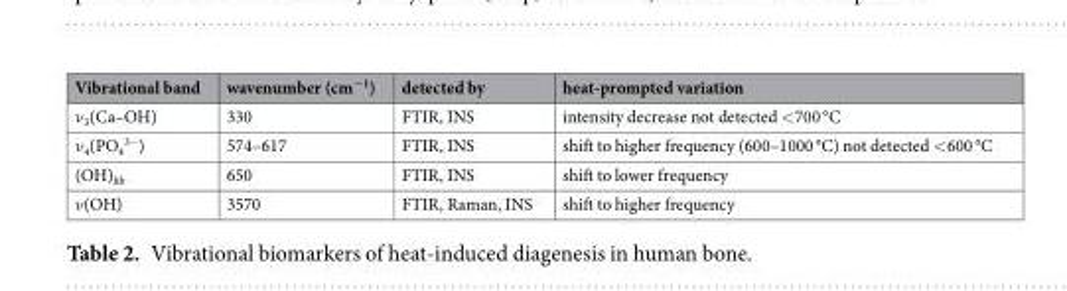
<table><thead><tr><td>Vibrational band</td><td>wavenumber (cm<sup>−1</sup>)</td><td>detected by</td><td>heat-prompted variation</td></tr></thead><tbody><tr><td>ν<sub>3</sub>(Ca–OH)</td><td>330</td><td>FTIR, INS</td><td>intensity decrease not detected &lt;700 °C</td></tr><tr><td>ν<sub>4</sub>(PO<sub>4</sub> <sup>3−</sup>)</td><td>574–617</td><td>FTIR, INS</td><td>shift to higher frequency (600–1000 °C) not detected &lt;600 °C</td></tr><tr><td>(OH)<sub>lib</sub></td><td>650</td><td>FTIR, INS</td><td>shift to lower frequency</td></tr><tr><td>ν(OH)</td><td>3570</td><td>FTIR, Raman, INS</td><td>shift to higher frequency</td></tr></tbody></table>